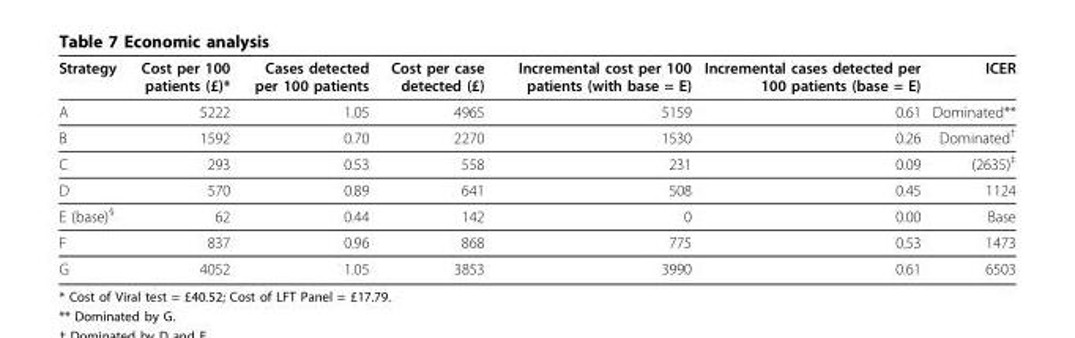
<table><thead><tr><td>Strategy</td><td>Cost per 100 patients (£)*</td><td>Cases detected per 100 patients</td><td>Cost per case detected (£)</td><td>Incremental cost per 100 patients (with base = E)</td><td>Incremental cases detected per 100 patients (base = E)</td><td>ICER</td></tr></thead><tbody><tr><td>A</td><td>5222</td><td>1.05</td><td>4965</td><td>5159</td><td>0.61</td><td>Dominated**</td></tr><tr><td>B</td><td>1592</td><td>0.70</td><td>2270</td><td>1530</td><td>0.26</td><td>Dominated<sup>†</sup></td></tr><tr><td>C</td><td>293</td><td>0.53</td><td>558</td><td>231</td><td>0.09</td><td>(2635)<sup>‡</sup></td></tr><tr><td>D</td><td>570</td><td>0.89</td><td>641</td><td>508</td><td>0.45</td><td>1124</td></tr><tr><td>E (base)<sup>§</sup></td><td>62</td><td>0.44</td><td>142</td><td>0</td><td>0.00</td><td>Base</td></tr><tr><td>F</td><td>837</td><td>0.96</td><td>868</td><td>775</td><td>0.53</td><td>1473</td></tr><tr><td>G</td><td>4052</td><td>1.05</td><td>3853</td><td>3990</td><td>0.61</td><td>6503</td></tr></tbody></table>